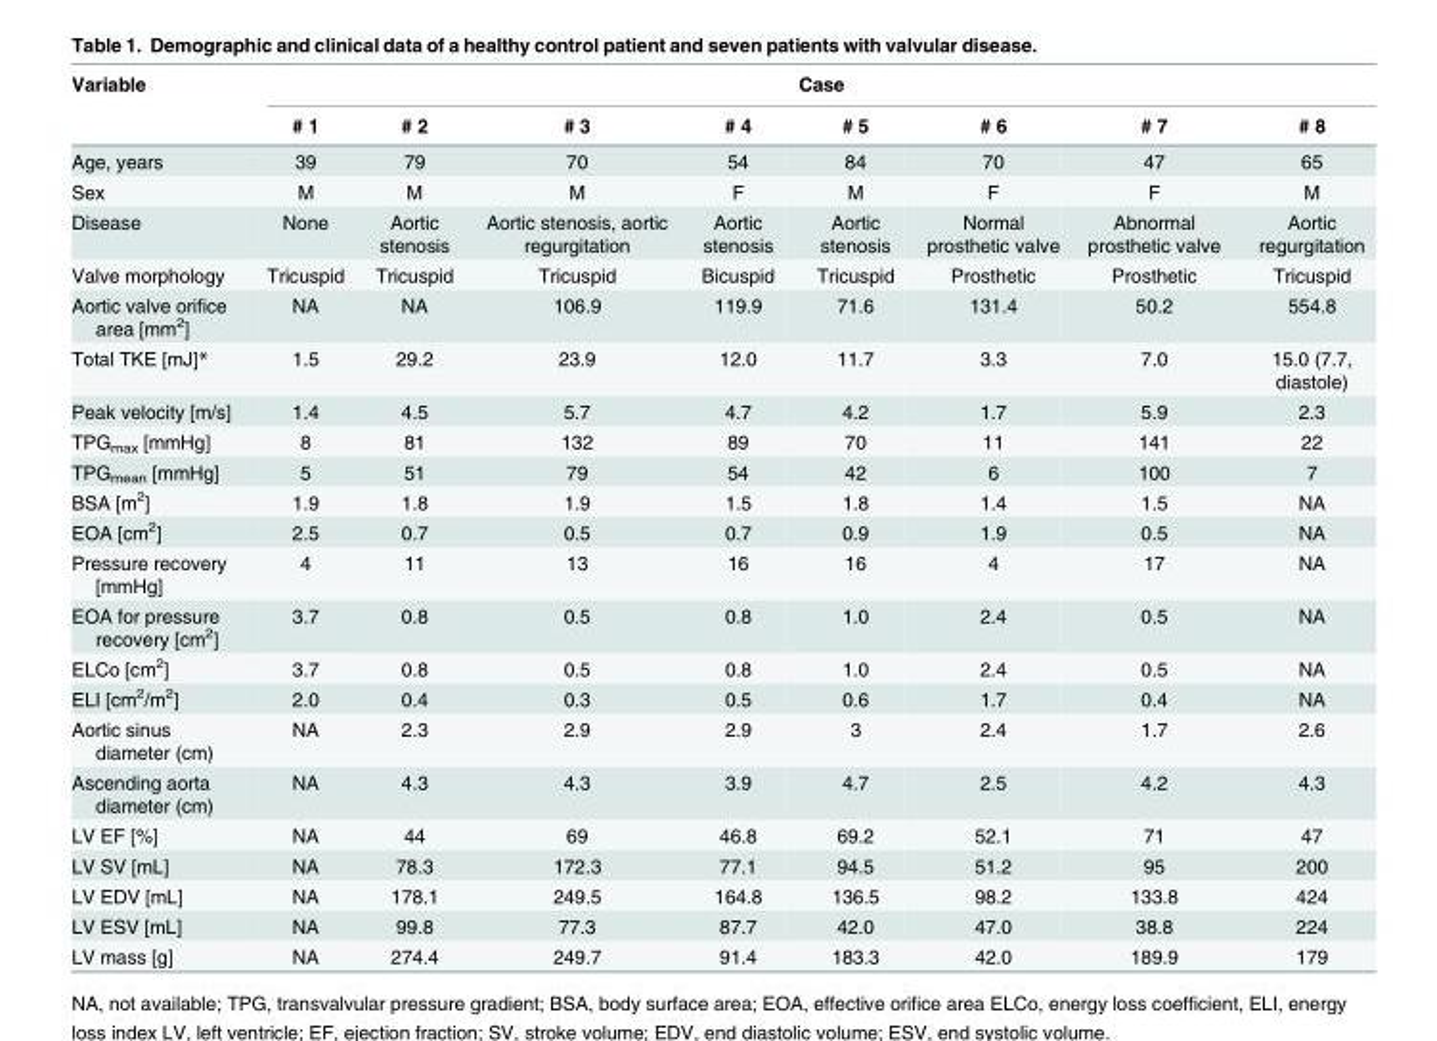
<table><thead><tr><td rowspan="2">Variable</td><td colspan="8">Case</td></tr><tr><td># 1</td><td># 2</td><td># 3</td><td># 4</td><td># 5</td><td># 6</td><td># 7</td><td># 8</td></tr></thead><tbody><tr><td>Age, years</td><td>39</td><td>79</td><td>70</td><td>54</td><td>84</td><td>70</td><td>47</td><td>65</td></tr><tr><td>Sex</td><td>M</td><td>M</td><td>M</td><td>F</td><td>M</td><td>F</td><td>F</td><td>M</td></tr><tr><td>Disease</td><td>None</td><td>Aortic stenosis</td><td>Aortic stenosis, aortic regurgitation</td><td>Aortic stenosis</td><td>Aortic stenosis</td><td>Normal prosthetic valve</td><td>Abnormal prosthetic valve</td><td>Aortic regurgitation</td></tr><tr><td>Valve morphology</td><td>Tricuspid</td><td>Tricuspid</td><td>Tricuspid</td><td>Bicuspid</td><td>Tricuspid</td><td>Prosthetic</td><td>Prosthetic</td><td>Tricuspid</td></tr><tr><td>Aortic valve orifice area [mm<sup>2</sup>]</td><td>NA</td><td>NA</td><td>106.9</td><td>119.9</td><td>71.6</td><td>131.4</td><td>50.2</td><td>554.8</td></tr><tr><td>Total TKE [mJ]*</td><td>1.5</td><td>29.2</td><td>23.9</td><td>12.0</td><td>11.7</td><td>3.3</td><td>7.0</td><td>15.0 (7.7, diastole)</td></tr><tr><td>Peak velocity [m/s]</td><td>1.4</td><td>4.5</td><td>5.7</td><td>4.7</td><td>4.2</td><td>1.7</td><td>5.9</td><td>2.3</td></tr><tr><td>TPG<sub>max</sub> [mmHg]</td><td>8</td><td>81</td><td>132</td><td>89</td><td>70</td><td>11</td><td>141</td><td>22</td></tr><tr><td>TPG<sub>mean</sub> [mmHg]</td><td>5</td><td>51</td><td>79</td><td>54</td><td>42</td><td>6</td><td>100</td><td>7</td></tr><tr><td>BSA [m<sup>2</sup>]</td><td>1.9</td><td>1.8</td><td>1.9</td><td>1.5</td><td>1.8</td><td>1.4</td><td>1.5</td><td>NA</td></tr><tr><td>EOA [cm<sup>2</sup>]</td><td>2.5</td><td>0.7</td><td>0.5</td><td>0.7</td><td>0.9</td><td>1.9</td><td>0.5</td><td>NA</td></tr><tr><td>Pressure recovery [mmHg]</td><td>4</td><td>11</td><td>13</td><td>16</td><td>16</td><td>4</td><td>17</td><td>NA</td></tr><tr><td>EOA for pressure recovery [cm<sup>2</sup>]</td><td>3.7</td><td>0.8</td><td>0.5</td><td>0.8</td><td>1.0</td><td>2.4</td><td>0.5</td><td>NA</td></tr><tr><td>ELCo [cm<sup>2</sup>]</td><td>3.7</td><td>0.8</td><td>0.5</td><td>0.8</td><td>1.0</td><td>2.4</td><td>0.5</td><td>NA</td></tr><tr><td>ELI [cm<sup>2</sup>/m<sup>2</sup>]</td><td>2.0</td><td>0.4</td><td>0.3</td><td>0.5</td><td>0.6</td><td>1.7</td><td>0.4</td><td>NA</td></tr><tr><td>Aortic sinus diameter (cm)</td><td>NA</td><td>2.3</td><td>2.9</td><td>2.9</td><td>3</td><td>2.4</td><td>1.7</td><td>2.6</td></tr><tr><td>Ascending aorta diameter (cm)</td><td>NA</td><td>4.3</td><td>4.3</td><td>3.9</td><td>4.7</td><td>2.5</td><td>4.2</td><td>4.3</td></tr><tr><td>LV EF [%]</td><td>NA</td><td>44</td><td>69</td><td>46.8</td><td>69.2</td><td>52.1</td><td>71</td><td>47</td></tr><tr><td>LV SV [mL]</td><td>NA</td><td>78.3</td><td>172.3</td><td>77.1</td><td>94.5</td><td>51.2</td><td>95</td><td>200</td></tr><tr><td>LV EDV [mL]</td><td>NA</td><td>178.1</td><td>249.5</td><td>164.8</td><td>136.5</td><td>98.2</td><td>133.8</td><td>424</td></tr><tr><td>LV ESV [mL]</td><td>NA</td><td>99.8</td><td>77.3</td><td>87.7</td><td>42.0</td><td>47.0</td><td>38.8</td><td>224</td></tr><tr><td>LV mass [g]</td><td>NA</td><td>274.4</td><td>249.7</td><td>91.4</td><td>183.3</td><td>42.0</td><td>189.9</td><td>179</td></tr></tbody></table>